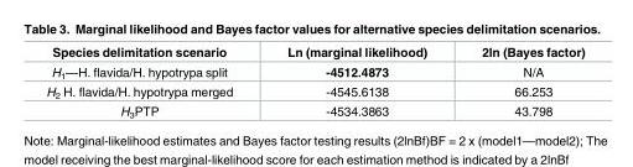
<table><thead><tr><td>Species delimitation scenario</td><td>Ln (marginal likelihood)</td><td>2ln (Bayes factor)</td></tr></thead><tbody><tr><td>H<sub>1</sub>—H. flavida/H. hypotrypa split</td><td>-4512.4873</td><td>N/A</td></tr><tr><td>H<sub>2</sub> H. flavida/H. hypotrypa merged</td><td>-4545.6138</td><td>66.253</td></tr><tr><td>H<sub>3</sub>PTP</td><td>-4534.3863</td><td>43.798</td></tr></tbody></table>